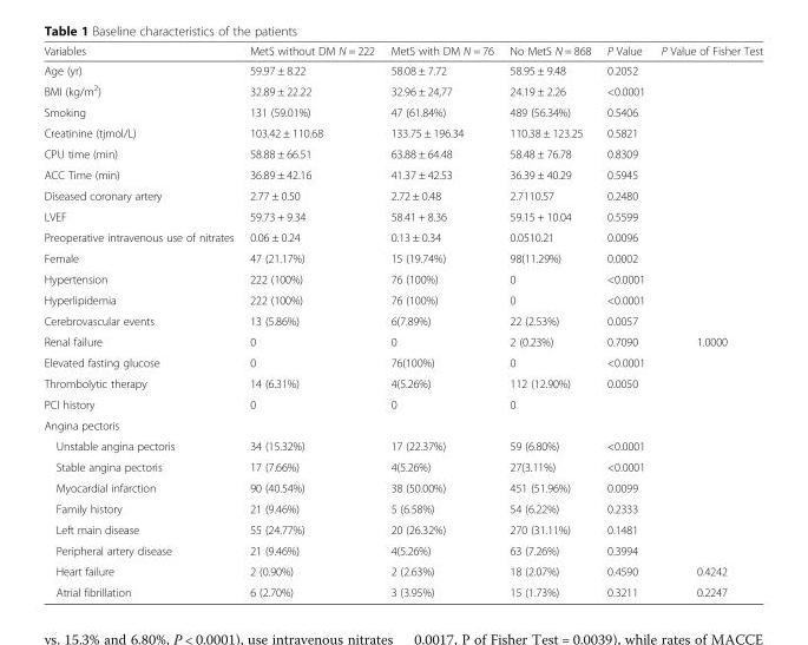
<table><thead><tr><td>Variables</td><td>MetS without DM N = 222</td><td>MetS with DM N = 76</td><td>No MetS N = 868</td><td>P Value</td><td>P Value of Fisher Test</td></tr></thead><tbody><tr><td>Age (yr)</td><td>59.97 ± 8.22</td><td>58.08 ± 7.72</td><td>58.95 ± 9.48</td><td>0.2052</td><td></td></tr><tr><td>BMI (kg/m<sup>2</sup>)</td><td>32.89 ± 22.22</td><td>32.96 ± 24,77</td><td>24.19 ± 2.26</td><td>&lt;0.0001</td><td></td></tr><tr><td>Smoking</td><td>131 (59.01%)</td><td>47 (61.84%)</td><td>489 (56.34%)</td><td>0.5406</td><td></td></tr><tr><td>Creatinine (tjmol/L)</td><td>103.42 ± 110.68</td><td>133.75 ± 196.34</td><td>110.38 ± 123.25</td><td>0.5821</td><td></td></tr><tr><td>CPU time (min)</td><td>58.88 ± 66.51</td><td>63.88 ± 64.48</td><td>58.48 ± 76.78</td><td>0.8309</td><td></td></tr><tr><td>ACC Time (min)</td><td>36.89 ± 42.16</td><td>41.37 ± 42.53</td><td>36.39 ± 40.29</td><td>0.5945</td><td></td></tr><tr><td>Diseased coronary artery</td><td>2.77 ± 0.50</td><td>2.72 ± 0.48</td><td>2.7110.57</td><td>0.2480</td><td></td></tr><tr><td>LVEF</td><td>59.73 + 9.34</td><td>58.41 + 8.36</td><td>59.15 + 10.04</td><td>0.5599</td><td></td></tr><tr><td>Preoperative intravenous use of nitrates</td><td>0.06 ± 0.24</td><td>0.13 ± 0.34</td><td>0.0510.21</td><td>0.0096</td><td></td></tr><tr><td>Female</td><td>47 (21.17%)</td><td>15 (19.74%)</td><td>98(11.29%)</td><td>0.0002</td><td></td></tr><tr><td>Hypertension</td><td>222 (100%)</td><td>76 (100%)</td><td>0</td><td>&lt;0.0001</td><td></td></tr><tr><td>Hyperlipidemia</td><td>222 (100%)</td><td>76 (100%)</td><td>0</td><td>&lt;0.0001</td><td></td></tr><tr><td>Cerebrovascular events</td><td>13 (5.86%)</td><td>6(7.89%)</td><td>22 (2.53%)</td><td>0.0057</td><td></td></tr><tr><td>Renal failure</td><td>0</td><td>0</td><td>2 (0.23%)</td><td>0.7090</td><td>1.0000</td></tr><tr><td>Elevated fasting glucose</td><td>0</td><td>76(100%)</td><td>0</td><td>&lt;0.0001</td><td></td></tr><tr><td>Thrombolytic therapy</td><td>14 (6.31%)</td><td>4(5.26%)</td><td>112 (12.90%)</td><td>0.0050</td><td></td></tr><tr><td>PCI history</td><td>0</td><td>0</td><td>0</td><td></td><td></td></tr><tr><td colspan="6">Angina pectoris</td></tr><tr><td>Unstable angina pectoris</td><td>34 (15.32%)</td><td>17 (22.37%)</td><td>59 (6.80%)</td><td>&lt;0.0001</td><td></td></tr><tr><td>Stable angina pectoris</td><td>17 (7.66%)</td><td>4(5.26%)</td><td>27(3.11%)</td><td>&lt;0.0001</td><td></td></tr><tr><td>Myocardial infarction</td><td>90 (40.54%)</td><td>38 (50.00%)</td><td>451 (51.96%)</td><td>0.0099</td><td></td></tr><tr><td>Family history</td><td>21 (9.46%)</td><td>5 (6.58%)</td><td>54 (6.22%)</td><td>0.2333</td><td></td></tr><tr><td>Left main disease</td><td>55 (24.77%)</td><td>20 (26.32%)</td><td>270 (31.11%)</td><td>0.1481</td><td></td></tr><tr><td>Peripheral artery disease</td><td>21 (9.46%)</td><td>4(5.26%)</td><td>63 (7.26%)</td><td>0.3994</td><td></td></tr><tr><td>Heart failure</td><td>2 (0.90%)</td><td>2 (2.63%)</td><td>18 (2.07%)</td><td>0.4590</td><td>0.4242</td></tr><tr><td>Atrial fibrillation</td><td>6 (2.70%)</td><td>3 (3.95%)</td><td>15 (1.73%)</td><td>0.3211</td><td>0.2247</td></tr></tbody></table>